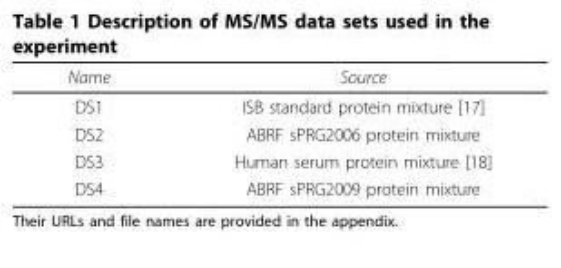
<table><thead><tr><td>Name</td><td>Source</td></tr></thead><tbody><tr><td>DS1</td><td>ISB standard protein mixture [17]</td></tr><tr><td>DS2</td><td>ABRF sPRG2006 protein mixture</td></tr><tr><td>DS3</td><td>Human serum protein mixture [18]</td></tr><tr><td>DS4</td><td>ABRF sPRG2009 protein mixture</td></tr></tbody></table>